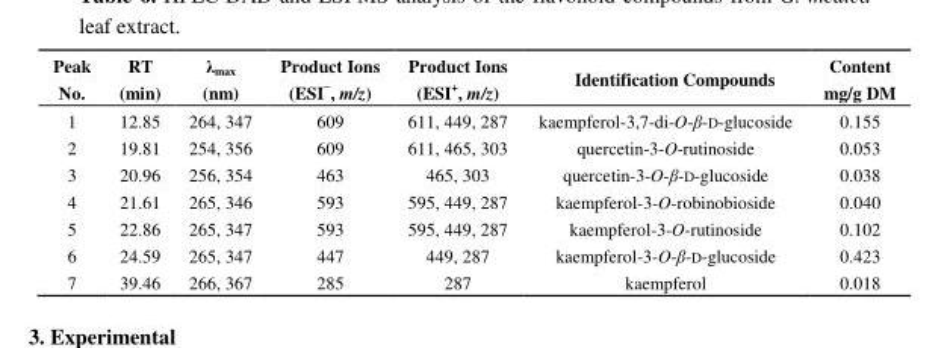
<table><thead><tr><td>Peak No.</td><td>RT (min)</td><td>λ<sub>max</sub> (nm)</td><td>Product Ions (ESI<sup>−</sup>, m/z)</td><td>Product Ions (ESI<sup>+</sup>, m/z)</td><td>Identification Compounds</td><td>Content mg/g DM</td></tr></thead><tbody><tr><td>1</td><td>12.85</td><td>264, 347</td><td>609</td><td>611, 449, 287</td><td>kaempferol-3,7-di-O-β-D-glucoside</td><td>0.155</td></tr><tr><td>2</td><td>19.81</td><td>254, 356</td><td>609</td><td>611, 465, 303</td><td>quercetin-3-O-rutinoside</td><td>0.053</td></tr><tr><td>3</td><td>20.96</td><td>256, 354</td><td>463</td><td>465, 303</td><td>quercetin-3-O-β-D-glucoside</td><td>0.038</td></tr><tr><td>4</td><td>21.61</td><td>265, 346</td><td>593</td><td>595, 449, 287</td><td>kaempferol-3-O-robinobioside</td><td>0.040</td></tr><tr><td>5</td><td>22.86</td><td>265, 347</td><td>593</td><td>595, 449, 287</td><td>kaempferol-3-O-rutinoside</td><td>0.102</td></tr><tr><td>6</td><td>24.59</td><td>265, 347</td><td>447</td><td>449, 287</td><td>kaempferol-3-O-β-D-glucoside</td><td>0.423</td></tr><tr><td>7</td><td>39.46</td><td>266, 367</td><td>285</td><td>287</td><td>kaempferol</td><td>0.018</td></tr></tbody></table>